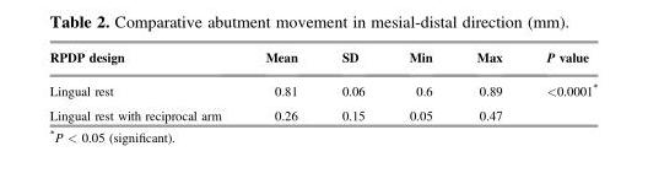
<table><thead><tr><td>RPDP design</td><td>Mean</td><td>SD</td><td>Min</td><td>Max</td><td>P value</td></tr></thead><tbody><tr><td>Lingual rest</td><td>0.81</td><td>0.06</td><td>0.6</td><td>0.89</td><td rowspan="2">&lt;0.0001*</td></tr><tr><td>Lingual rest with reciprocal arm</td><td>0.26</td><td>0.15</td><td>0.05</td><td>0.47</td></tr></tbody></table>